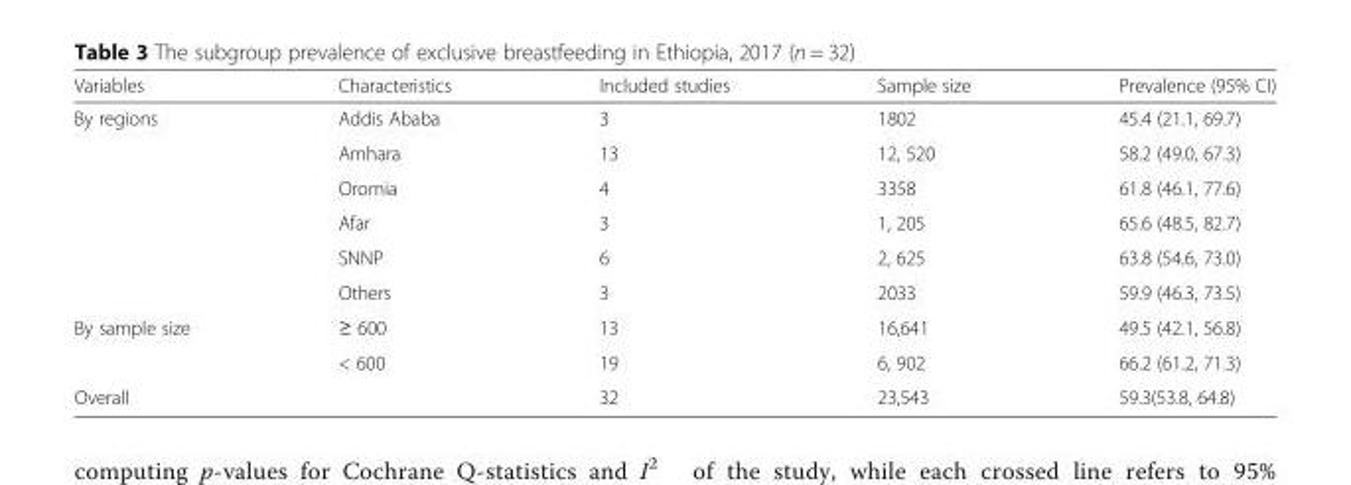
<table><thead><tr><td>Variables</td><td>Characteristics</td><td>Included studies</td><td>Sample size</td><td>Prevalence (95% CI)</td></tr></thead><tbody><tr><td rowspan="6">By regions</td><td>Addis Ababa</td><td>3</td><td>1802</td><td>45.4 (21.1, 69.7)</td></tr><tr><td>Amhara</td><td>13</td><td>12, 520</td><td>58.2 (49.0, 67.3)</td></tr><tr><td>Oromia</td><td>4</td><td>3358</td><td>61.8 (46.1, 77.6)</td></tr><tr><td>Afar</td><td>3</td><td>1, 205</td><td>65.6 (48.5, 82.7)</td></tr><tr><td>SNNP</td><td>6</td><td>2, 625</td><td>63.8 (54.6, 73.0)</td></tr><tr><td>Others</td><td>3</td><td>2033</td><td>59.9 (46.3, 73.5)</td></tr><tr><td rowspan="2">By sample size</td><td>≥ 600</td><td>13</td><td>16,641</td><td>49.5 (42.1, 56.8)</td></tr><tr><td>&lt; 600</td><td>19</td><td>6, 902</td><td>66.2 (61.2, 71.3)</td></tr><tr><td>Overall</td><td></td><td>32</td><td>23,543</td><td>59.3(53.8, 64.8)</td></tr></tbody></table>